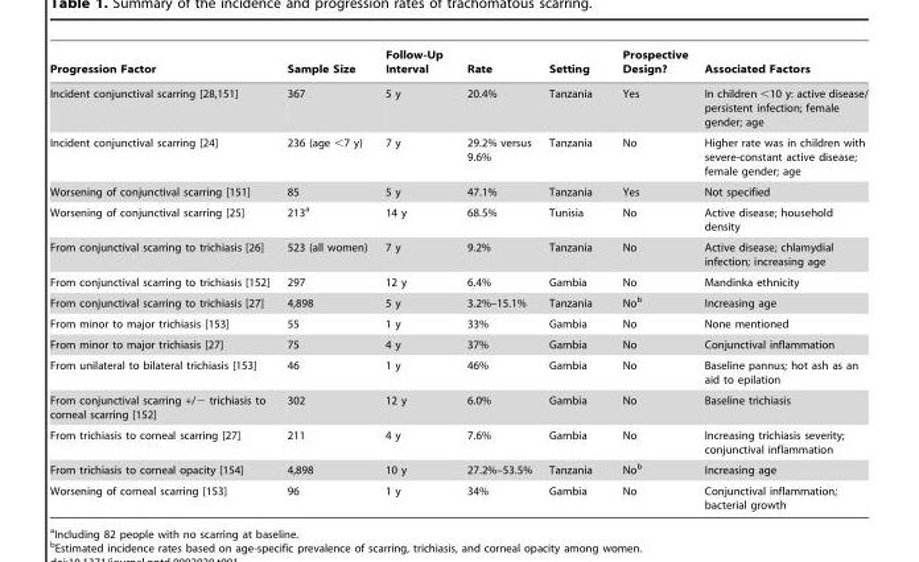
<table><thead><tr><td>Progression Factor</td><td>Sample Size</td><td>Follow-Up Interval</td><td>Rate</td><td>Setting</td><td>Prospective Design?</td><td>Associated Factors</td></tr></thead><tbody><tr><td>Incident conjunctival scarring [28,151]</td><td>367</td><td>5 y</td><td>20.4%</td><td>Tanzania</td><td>Yes</td><td>In children &lt;10 y: active disease/ persistent infection; female gender; age</td></tr><tr><td>Incident conjunctival scarring [24]</td><td>236 (age &lt;7 y)</td><td>7 y</td><td>29.2% versus 9.6%</td><td>Tanzania</td><td>No</td><td>Higher rate was in children with severe-constant active disease; female gender; age</td></tr><tr><td>Worsening of conjunctival scarring [151]</td><td>85</td><td>5 y</td><td>47.1%</td><td>Tanzania</td><td>Yes</td><td>Not specified</td></tr><tr><td>Worsening of conjunctival scarring [25]</td><td>213<sup>a</sup></td><td>14 y</td><td>68.5%</td><td>Tunisia</td><td>No</td><td>Active disease; household density</td></tr><tr><td>From conjunctival scarring to trichiasis [26]</td><td>523 (all women)</td><td>7 y</td><td>9.2%</td><td>Tanzania</td><td>No</td><td>Active disease; chlamydial infection; increasing age</td></tr><tr><td>From conjunctival scarring to trichiasis [152]</td><td>297</td><td>12 y</td><td>6.4%</td><td>Gambia</td><td>No</td><td>Mandinka ethnicity</td></tr><tr><td>From conjunctival scarring to trichiasis [27]</td><td>4,898</td><td>5 y</td><td>3.2%–15.1%</td><td>Tanzania</td><td>No<sup>b</sup></td><td>Increasing age</td></tr><tr><td>From minor to major trichiasis [153]</td><td>55</td><td>1 y</td><td>33%</td><td>Gambia</td><td>No</td><td>None mentioned</td></tr><tr><td>From minor to major trichiasis [27]</td><td>75</td><td>4 y</td><td>37%</td><td>Gambia</td><td>No</td><td>Conjunctival inflammation</td></tr><tr><td>From unilateral to bilateral trichiasis [153]</td><td>46</td><td>1 y</td><td>46%</td><td>Gambia</td><td>No</td><td>Baseline pannus; hot ash as an aid to epilation</td></tr><tr><td>From conjunctival scarring +/− trichiasis to corneal scarring [152]</td><td>302</td><td>12 y</td><td>6.0%</td><td>Gambia</td><td>No</td><td>Baseline trichiasis</td></tr><tr><td>From trichiasis to corneal scarring [27]</td><td>211</td><td>4 y</td><td>7.6%</td><td>Gambia</td><td>No</td><td>Increasing trichiasis severity; conjunctival inflammation</td></tr><tr><td>From trichiasis to corneal opacity [154]</td><td>4,898</td><td>10 y</td><td>27.2%–53.5%</td><td>Tanzania</td><td>No<sup>b</sup></td><td>Increasing age</td></tr><tr><td>Worsening of corneal scarring [153]</td><td>96</td><td>1 y</td><td>34%</td><td>Gambia</td><td>No</td><td>Conjunctival inflammation; bacterial growth</td></tr></tbody></table>